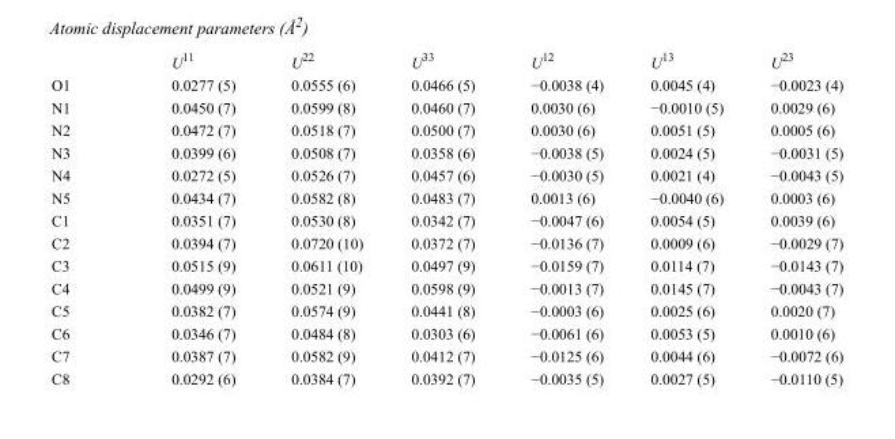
<table><thead><tr><td></td><td>U<sup>11</sup></td><td>U<sup>22</sup></td><td>U<sup>33</sup></td><td>U<sup>12</sup></td><td>U<sup>13</sup></td><td>U<sup>23</sup></td></tr></thead><tbody><tr><td>O1</td><td>0.0277 (5)</td><td>0.0555 (6)</td><td>0.0466 (5)</td><td>−0.0038 (4)</td><td>0.0045 (4)</td><td>−0.0023 (4)</td></tr><tr><td>N1</td><td>0.0450 (7)</td><td>0.0599 (8)</td><td>0.0460 (7)</td><td>0.0030 (6)</td><td>−0.0010 (5)</td><td>0.0029 (6)</td></tr><tr><td>N2</td><td>0.0472 (7)</td><td>0.0518 (7)</td><td>0.0500 (7)</td><td>0.0030 (6)</td><td>0.0051 (5)</td><td>0.0005 (6)</td></tr><tr><td>N3</td><td>0.0399 (6)</td><td>0.0508 (7)</td><td>0.0358 (6)</td><td>−0.0038 (5)</td><td>0.0024 (5)</td><td>−0.0031 (5)</td></tr><tr><td>N4</td><td>0.0272 (5)</td><td>0.0526 (7)</td><td>0.0457 (6)</td><td>−0.0030 (5)</td><td>0.0021 (4)</td><td>−0.0043 (5)</td></tr><tr><td>N5</td><td>0.0434 (7)</td><td>0.0582 (8)</td><td>0.0483 (7)</td><td>0.0013 (6)</td><td>−0.0040 (6)</td><td>0.0003 (6)</td></tr><tr><td>C1</td><td>0.0351 (7)</td><td>0.0530 (8)</td><td>0.0342 (7)</td><td>−0.0047 (6)</td><td>0.0054 (5)</td><td>0.0039 (6)</td></tr><tr><td>C2</td><td>0.0394 (7)</td><td>0.0720 (10)</td><td>0.0372 (7)</td><td>−0.0136 (7)</td><td>0.0009 (6)</td><td>−0.0029 (7)</td></tr><tr><td>C3</td><td>0.0515 (9)</td><td>0.0611 (10)</td><td>0.0497 (9)</td><td>−0.0159 (7)</td><td>0.0114 (7)</td><td>−0.0143 (7)</td></tr><tr><td>C4</td><td>0.0499 (9)</td><td>0.0521 (9)</td><td>0.0598 (9)</td><td>−0.0013 (7)</td><td>0.0145 (7)</td><td>−0.0043 (7)</td></tr><tr><td>C5</td><td>0.0382 (7)</td><td>0.0574 (9)</td><td>0.0441 (8)</td><td>−0.0003 (6)</td><td>0.0025 (6)</td><td>0.0020 (7)</td></tr><tr><td>C6</td><td>0.0346 (7)</td><td>0.0484 (8)</td><td>0.0303 (6)</td><td>−0.0061 (6)</td><td>0.0053 (5)</td><td>0.0010 (6)</td></tr><tr><td>C7</td><td>0.0387 (7)</td><td>0.0582 (9)</td><td>0.0412 (7)</td><td>−0.0125 (6)</td><td>0.0044 (6)</td><td>−0.0072 (6)</td></tr><tr><td>C8</td><td>0.0292 (6)</td><td>0.0384 (7)</td><td>0.0392 (7)</td><td>−0.0035 (5)</td><td>0.0027 (5)</td><td>−0.0110 (5)</td></tr></tbody></table>